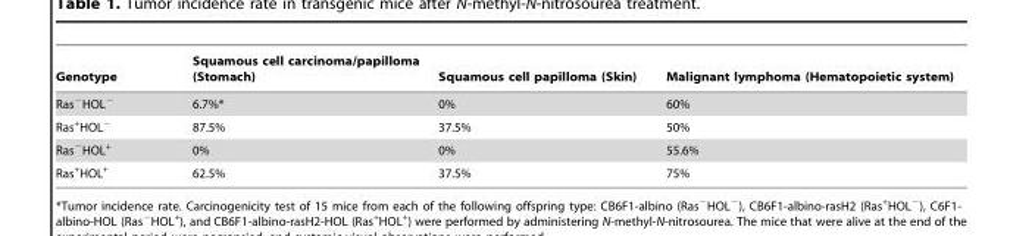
<table><thead><tr><td>Genotype</td><td>Squamous cell carcinoma/papilloma (Stomach)</td><td>Squamous cell papilloma (Skin)</td><td>Malignant lymphoma (Hematopoietic system)</td></tr></thead><tbody><tr><td>Ras<sup>−</sup>HOL<sup>−</sup></td><td>6.7%*</td><td>0%</td><td>60%</td></tr><tr><td>Ras<sup>+</sup>HOL<sup>−</sup></td><td>87.5%</td><td>37.5%</td><td>50%</td></tr><tr><td>Ras<sup>−</sup>HOL<sup>+</sup></td><td>0%</td><td>0%</td><td>55.6%</td></tr><tr><td>Ras<sup>+</sup>HOL<sup>+</sup></td><td>62.5%</td><td>37.5%</td><td>75%</td></tr></tbody></table>